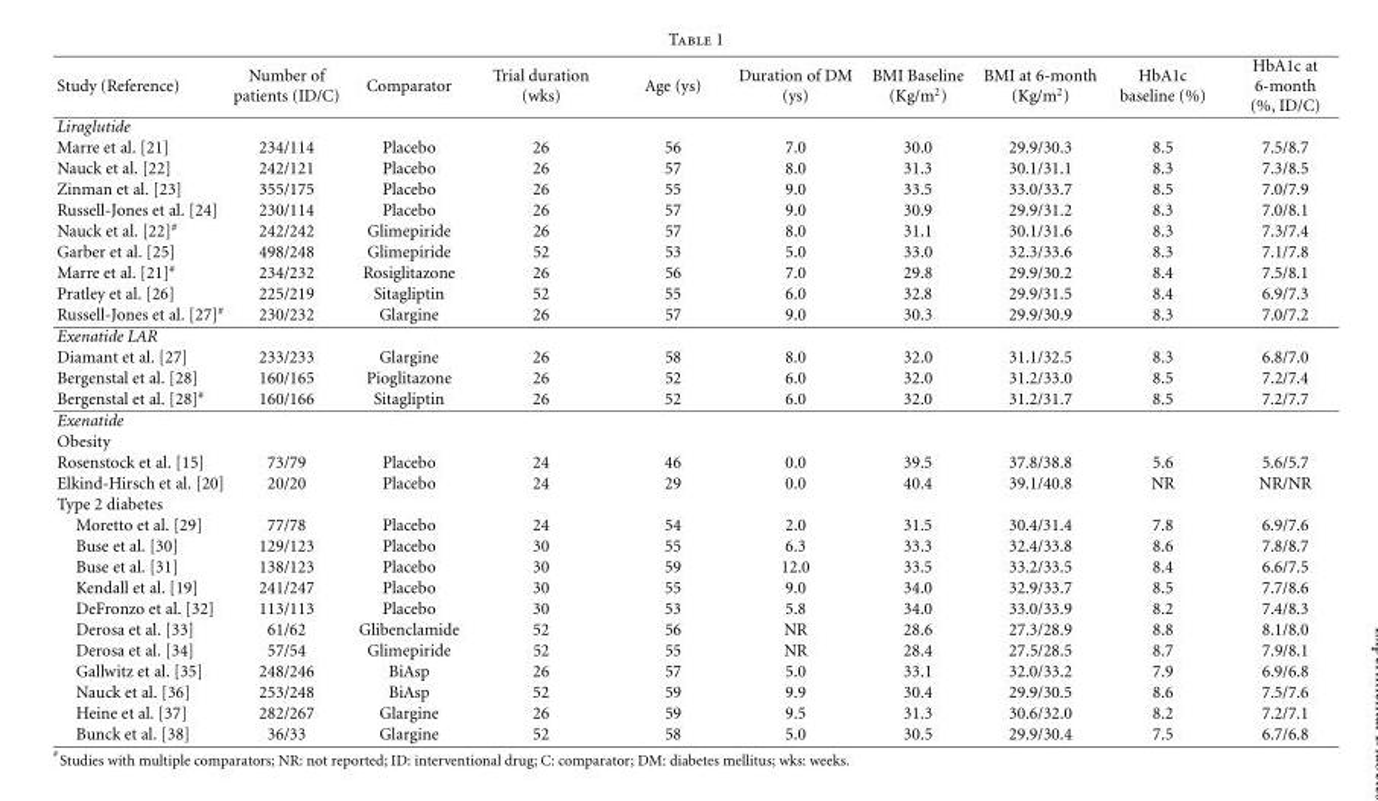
<table><thead><tr><td>Study (Reference)</td><td>Number of patients (ID/C)</td><td>Comparator</td><td>Trial duration (wks)</td><td>Age (ys)</td><td>Duration of DM (ys)</td><td>BMI Baseline (Kg/m<sup>2</sup>)</td><td>BMI at 6-month (Kg/m<sup>2</sup>)</td><td>HbA1c baseline (%)</td><td>HbA1c at 6-month (%, ID/C)</td></tr></thead><tbody><tr><td colspan="10">Liraglutide</td></tr><tr><td>Marre et al. [21]</td><td>234/114</td><td>Placebo</td><td>26</td><td>56</td><td>7.0</td><td>30.0</td><td>29.9/30.3</td><td>8.5</td><td>7.5/8.7</td></tr><tr><td>Nauck et al. [22]</td><td>242/121</td><td>Placebo</td><td>26</td><td>57</td><td>8.0</td><td>31.3</td><td>30.1/31.1</td><td>8.3</td><td>7.3/8.5</td></tr><tr><td>Zinman et al. [23]</td><td>355/175</td><td>Placebo</td><td>26</td><td>55</td><td>9.0</td><td>33.5</td><td>33.0/33.7</td><td>8.5</td><td>7.0/7.9</td></tr><tr><td>Russell-Jones et al. [24]</td><td>230/114</td><td>Placebo</td><td>26</td><td>57</td><td>9.0</td><td>30.9</td><td>29.9/31.2</td><td>8.3</td><td>7.0/8.1</td></tr><tr><td>Nauck et al. [22]<sup>#</sup></td><td>242/242</td><td>Glimepiride</td><td>26</td><td>57</td><td>8.0</td><td>31.1</td><td>30.1/31.6</td><td>8.3</td><td>7.3/7.4</td></tr><tr><td>Garber et al. [25]</td><td>498/248</td><td>Glimepiride</td><td>52</td><td>53</td><td>5.0</td><td>33.0</td><td>32.3/33.6</td><td>8.3</td><td>7.1/7.8</td></tr><tr><td>Marre et al. [21]<sup>#</sup></td><td>234/232</td><td>Rosiglitazone</td><td>26</td><td>56</td><td>7.0</td><td>29.8</td><td>29.9/30.2</td><td>8.4</td><td>7.5/8.1</td></tr><tr><td>Pratley et al. [26]</td><td>225/219</td><td>Sitagliptin</td><td>52</td><td>55</td><td>6.0</td><td>32.8</td><td>29.9/31.5</td><td>8.4</td><td>6.9/7.3</td></tr><tr><td>Russell-Jones et al. [27]<sup>#</sup></td><td>230/232</td><td>Glargine</td><td>26</td><td>57</td><td>9.0</td><td>30.3</td><td>29.9/30.9</td><td>8.3</td><td>7.0/7.2</td></tr><tr><td colspan="10">Exenatide LAR</td></tr><tr><td>Diamant et al. [27]</td><td>233/233</td><td>Glargine</td><td>26</td><td>58</td><td>8.0</td><td>32.0</td><td>31.1/32.5</td><td>8.3</td><td>6.8/7.0</td></tr><tr><td>Bergenstal et al. [28]</td><td>160/165</td><td>Pioglitazone</td><td>26</td><td>52</td><td>6.0</td><td>32.0</td><td>31.2/33.0</td><td>8.5</td><td>7.2/7.4</td></tr><tr><td>Bergenstal et al. [28]<sup>#</sup></td><td>160/166</td><td>Sitagliptin</td><td>26</td><td>52</td><td>6.0</td><td>32.0</td><td>31.2/31.7</td><td>8.5</td><td>7.2/7.7</td></tr><tr><td colspan="10">Exenatide</td></tr><tr><td colspan="10">Obesity</td></tr><tr><td>Rosenstock et al. [15]</td><td>73/79</td><td>Placebo</td><td>24</td><td>46</td><td>0.0</td><td>39.5</td><td>37.8/38.8</td><td>5.6</td><td>5.6/5.7</td></tr><tr><td>Elkind-Hirsch et al. [20]</td><td>20/20</td><td>Placebo</td><td>24</td><td>29</td><td>0.0</td><td>40.4</td><td>39.1/40.8</td><td>NR</td><td>NR/NR</td></tr><tr><td colspan="10">Type 2 diabetes</td></tr><tr><td>Moretto et al. [29]</td><td>77/78</td><td>Placebo</td><td>24</td><td>54</td><td>2.0</td><td>31.5</td><td>30.4/31.4</td><td>7.8</td><td>6.9/7.6</td></tr><tr><td>Buse et al. [30]</td><td>129/123</td><td>Placebo</td><td>30</td><td>55</td><td>6.3</td><td>33.3</td><td>32.4/33.8</td><td>8.6</td><td>7.8/8.7</td></tr><tr><td>Buse et al. [31]</td><td>138/123</td><td>Placebo</td><td>30</td><td>59</td><td>12.0</td><td>33.5</td><td>33.2/33.5</td><td>8.4</td><td>6.6/7.5</td></tr><tr><td>Kendall et al. [19]</td><td>241/247</td><td>Placebo</td><td>30</td><td>55</td><td>9.0</td><td>34.0</td><td>32.9/33.7</td><td>8.5</td><td>7.7/8.6</td></tr><tr><td>DeFronzo et al. [32]</td><td>113/113</td><td>Placebo</td><td>30</td><td>53</td><td>5.8</td><td>34.0</td><td>33.0/33.9</td><td>8.2</td><td>7.4/8.3</td></tr><tr><td>Derosa et al. [33]</td><td>61/62</td><td>Glibenclamide</td><td>52</td><td>56</td><td>NR</td><td>28.6</td><td>27.3/28.9</td><td>8.8</td><td>8.1/8.0</td></tr><tr><td>Derosa et al. [34]</td><td>57/54</td><td>Glimepiride</td><td>52</td><td>55</td><td>NR</td><td>28.4</td><td>27.5/28.5</td><td>8.7</td><td>7.9/8.1</td></tr><tr><td>Gallwitz et al. [35]</td><td>248/246</td><td>BiAsp</td><td>26</td><td>57</td><td>5.0</td><td>33.1</td><td>32.0/33.2</td><td>7.9</td><td>6.9/6.8</td></tr><tr><td>Nauck et al. [36]</td><td>253/248</td><td>BiAsp</td><td>52</td><td>59</td><td>9.9</td><td>30.4</td><td>29.9/30.5</td><td>8.6</td><td>7.5/7.6</td></tr><tr><td>Heine et al. [37]</td><td>282/267</td><td>Glargine</td><td>26</td><td>59</td><td>9.5</td><td>31.3</td><td>30.6/32.0</td><td>8.2</td><td>7.2/7.1</td></tr><tr><td>Bunck et al. [38]</td><td>36/33</td><td>Glargine</td><td>52</td><td>58</td><td>5.0</td><td>30.5</td><td>29.9/30.4</td><td>7.5</td><td>6.7/6.8</td></tr></tbody></table>